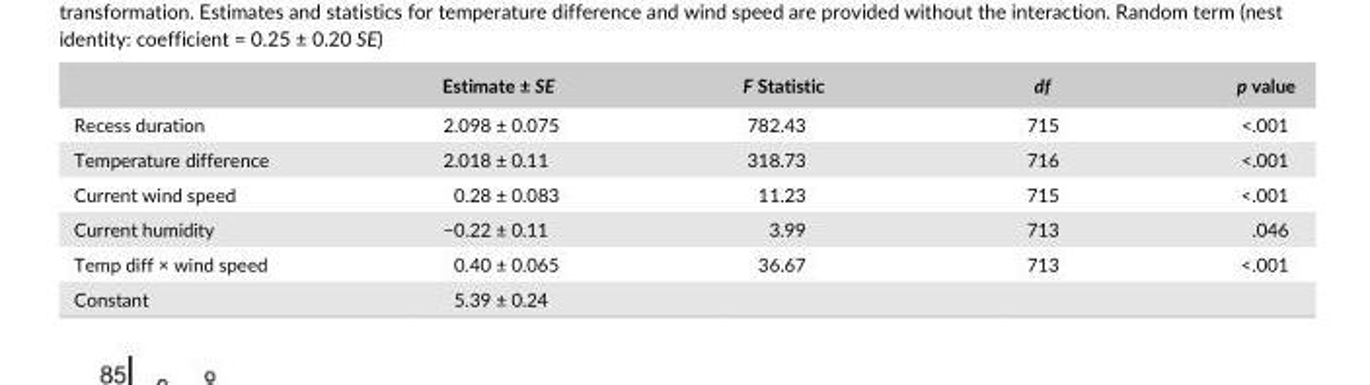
<table><thead><tr><td></td><td>Estimate ± SE</td><td>F Statistic</td><td>df</td><td>p value</td></tr></thead><tbody><tr><td>Recess duration</td><td>2.098 ± 0.075</td><td>782.43</td><td>715</td><td>&lt;.001</td></tr><tr><td>Temperature difference</td><td>2.018 ± 0.11</td><td>318.73</td><td>716</td><td>&lt;.001</td></tr><tr><td>Current wind speed</td><td>0.28 ± 0.083</td><td>11.23</td><td>715</td><td>&lt;.001</td></tr><tr><td>Current humidity</td><td>−0.22 ± 0.11</td><td>3.99</td><td>713</td><td>.046</td></tr><tr><td>Temp diff × wind speed</td><td>0.40 ± 0.065</td><td>36.67</td><td>713</td><td>&lt;.001</td></tr><tr><td>Constant</td><td>5.39 ± 0.24</td><td></td><td></td><td></td></tr></tbody></table>